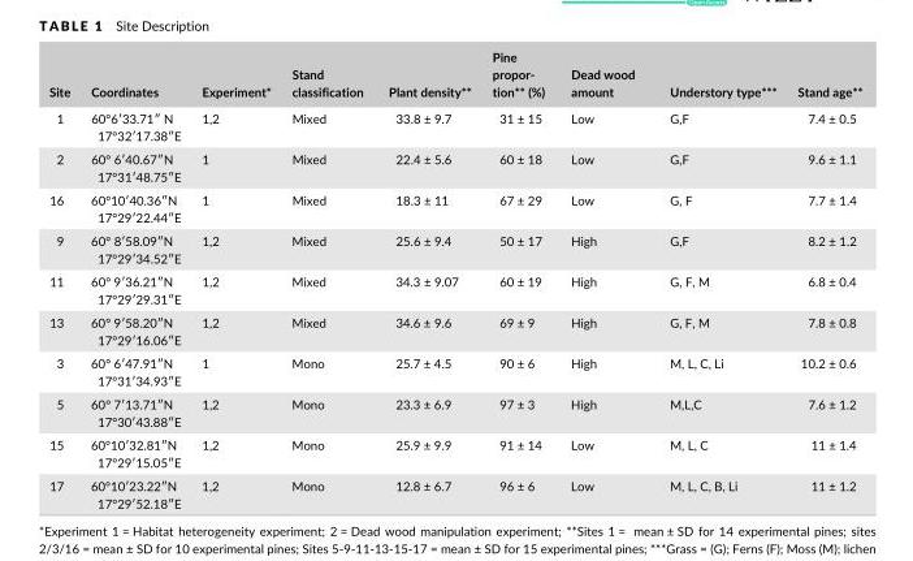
<table><thead><tr><td>Site</td><td>Coordinates</td><td>Experiment*</td><td>Stand classification</td><td>Plant density**</td><td>Pine propor- tion** (%)</td><td>Dead wood amount</td><td>Understory type***</td><td>Stand age**</td></tr></thead><tbody><tr><td>1</td><td>60°6′33.71″ N 17°32′17.38″E</td><td>1,2</td><td>Mixed</td><td>33.8 ± 9.7</td><td>31 ± 15</td><td>Low</td><td>G,F</td><td>7.4 ± 0.5</td></tr><tr><td>2</td><td>60° 6′40.67″N 17°31′48.75″E</td><td>1</td><td>Mixed</td><td>22.4 ± 5.6</td><td>60 ± 18</td><td>Low</td><td>G,F</td><td>9.6 ± 1.1</td></tr><tr><td>16</td><td>60°10′40.36″N 17°29′22.44″E</td><td>1</td><td>Mixed</td><td>18.3 ± 11</td><td>67 ± 29</td><td>Low</td><td>G, F</td><td>7.7 ± 1.4</td></tr><tr><td>9</td><td>60° 8′58.09″N 17°29′34.52″E</td><td>1,2</td><td>Mixed</td><td>25.6 ± 9.4</td><td>50 ± 17</td><td>High</td><td>G,F</td><td>8.2 ± 1.2</td></tr><tr><td>11</td><td>60° 9′36.21″N 17°29′29.31″E</td><td>1,2</td><td>Mixed</td><td>34.3 ± 9.07</td><td>60 ± 19</td><td>High</td><td>G, F, M</td><td>6.8 ± 0.4</td></tr><tr><td>13</td><td>60° 9′58.20″N 17°29′16.06″E</td><td>1,2</td><td>Mixed</td><td>34.6 ± 9.6</td><td>69 ± 9</td><td>High</td><td>G, F, M</td><td>7.8 ± 0.8</td></tr><tr><td>3</td><td>60° 6′47.91″N 17°31′34.93″E</td><td>1</td><td>Mono</td><td>25.7 ± 4.5</td><td>90 ± 6</td><td>High</td><td>M, L, C, Li</td><td>10.2 ± 0.6</td></tr><tr><td>5</td><td>60° 7′13.71″N 17°30′43.88″E</td><td>1,2</td><td>Mono</td><td>23.3 ± 6.9</td><td>97 ± 3</td><td>High</td><td>M,L,C</td><td>7.6 ± 1.2</td></tr><tr><td>15</td><td>60°10′32.81″N 17°29′15.05″E</td><td>1,2</td><td>Mono</td><td>25.9 ± 9.9</td><td>91 ± 14</td><td>Low</td><td>M, L, C</td><td>11 ± 1.4</td></tr><tr><td>17</td><td>60°10′23.22″N 17°29′52.18″E</td><td>1,2</td><td>Mono</td><td>12.8 ± 6.7</td><td>96 ± 6</td><td>Low</td><td>M, L, C, B, Li</td><td>11 ± 1.2</td></tr></tbody></table>